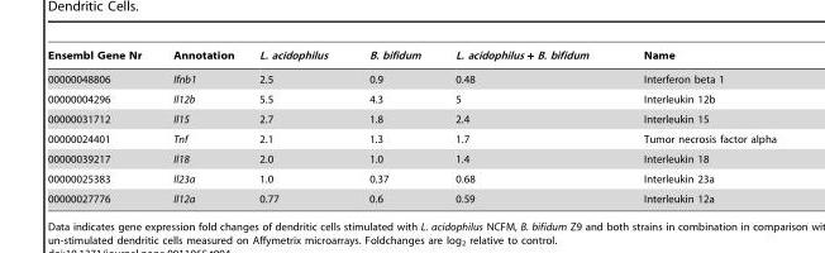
<table><thead><tr><td>Ensembl Gene Nr</td><td>Annotation</td><td>L. acidophilus</td><td>B. bifidum</td><td>L. acidophilus + B. bifidum</td><td>Name</td></tr></thead><tbody><tr><td>00000048806</td><td>Ifnb1</td><td>2.5</td><td>0.9</td><td>0.48</td><td>Interferon beta 1</td></tr><tr><td>00000004296</td><td>Il12b</td><td>5.5</td><td>4.3</td><td>5</td><td>Interleukin 12b</td></tr><tr><td>00000031712</td><td>Il15</td><td>2.7</td><td>1.8</td><td>2.4</td><td>Interleukin 15</td></tr><tr><td>00000024401</td><td>Tnf</td><td>2.1</td><td>1.3</td><td>1.7</td><td>Tumor necrosis factor alpha</td></tr><tr><td>00000039217</td><td>Il18</td><td>2.0</td><td>1.0</td><td>1.4</td><td>Interleukin 18</td></tr><tr><td>00000025383</td><td>Il23a</td><td>1.0</td><td>0.37</td><td>0.68</td><td>Interleukin 23a</td></tr><tr><td>00000027776</td><td>Il12a</td><td>0.77</td><td>0.6</td><td>0.59</td><td>Interleukin 12a</td></tr></tbody></table>